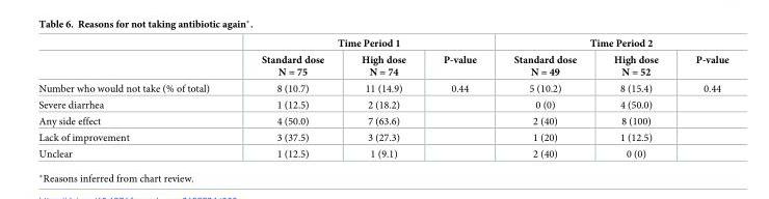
<table><thead><tr><td rowspan="2"></td><td colspan="3">Time Period 1</td><td colspan="3">Time Period 2</td></tr><tr><td>Standard dose N = 75</td><td>High dose N = 74</td><td>P-value</td><td>Standard dose N = 49</td><td>High dose N = 52</td><td>P-value</td></tr></thead><tbody><tr><td>Number who would not take (% of total)</td><td>8 (10.7)</td><td>11 (14.9)</td><td>0.44</td><td>5 (10.2)</td><td>8 (15.4)</td><td>0.44</td></tr><tr><td>Severe diarrhea</td><td>1 (12.5)</td><td>2 (18.2)</td><td></td><td>0 (0)</td><td>4 (50.0)</td><td></td></tr><tr><td>Any side effect</td><td>4 (50.0)</td><td>7 (63.6)</td><td></td><td>2 (40)</td><td>8 (100)</td><td></td></tr><tr><td>Lack of improvement</td><td>3 (37.5)</td><td>3 (27.3)</td><td></td><td>1 (20)</td><td>1 (12.5)</td><td></td></tr><tr><td>Unclear</td><td>1 (12.5)</td><td>1 (9.1)</td><td></td><td>2 (40)</td><td>0 (0)</td><td></td></tr></tbody></table>